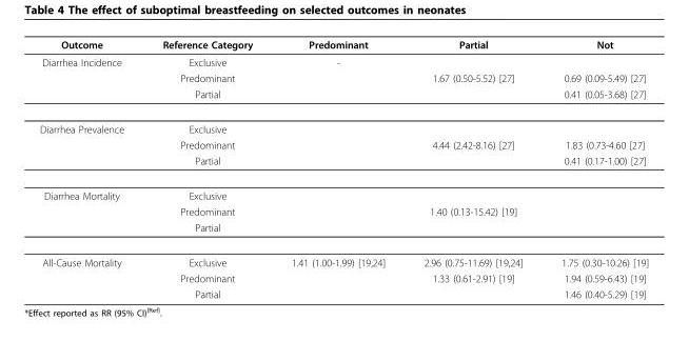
<table><tbody><tr><td>Outcome</td><td>Reference Category</td><td>Predominant</td><td>Partial</td><td>Not</td></tr><tr><td rowspan="3">Diarrhea Incidence</td><td>Exclusive</td><td>-</td><td></td><td></td></tr><tr><td>Predominant</td><td></td><td>1.67 (0.50-5.52) [27]</td><td>0.69 (0.09-5.49) [27]</td></tr><tr><td>Partial</td><td></td><td></td><td>0.41 (0.05-3.68) [27]</td></tr><tr><td rowspan="3">Diarrhea Prevalence</td><td>Exclusive</td><td></td><td></td><td></td></tr><tr><td>Predominant</td><td></td><td>4.44 (2.42-8.16) [27]</td><td>1.83 (0.73-4.60 [27]</td></tr><tr><td>Partial</td><td></td><td></td><td>0.41 (0.17-1.00) [27]</td></tr><tr><td rowspan="3">Diarrhea Mortality</td><td>Exclusive</td><td></td><td></td><td></td></tr><tr><td>Predominant</td><td></td><td>1.40 (0.13-15.42) [19]</td><td></td></tr><tr><td>Partial</td><td></td><td></td><td></td></tr><tr><td rowspan="3">All-Cause Mortality</td><td>Exclusive</td><td>1.41 (1.00-1.99) [19,24]</td><td>2.96 (0.75-11.69) [19,24]</td><td>1.75 (0.30-10.26) [19]</td></tr><tr><td>Predominant</td><td></td><td>1.33 (0.61-2.91) [19]</td><td>1.94 (0.59-6.43) [19]</td></tr><tr><td>Partial</td><td></td><td></td><td>1.46 (0.40-5.29) [19]</td></tr></tbody></table>